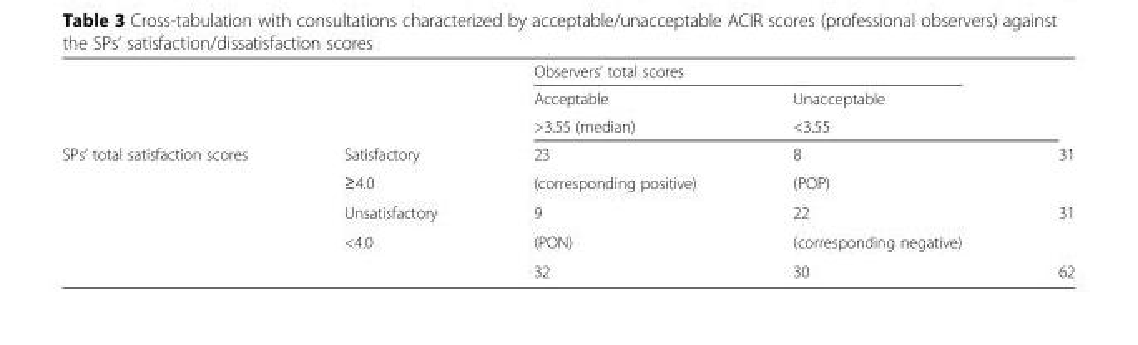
<table><thead><tr><td rowspan="3"></td><td rowspan="3"></td><td colspan="2">Observers’ total scores</td><td rowspan="3"></td></tr><tr><td rowspan="2">Acceptable &gt;3.55 (median)</td><td rowspan="2">Unacceptable &lt;3.55</td></tr><tr></tr></thead><tbody><tr><td rowspan="5">SPs’ total satisfaction scores</td><td>Satisfactory</td><td>23</td><td>8</td><td rowspan="2">31</td></tr><tr><td>≥4.0</td><td>(corresponding positive)</td><td>(POP)</td></tr><tr><td>Unsatisfactory</td><td>9</td><td>22</td><td rowspan="2">31</td></tr><tr><td>&lt;4.0</td><td>(PON)</td><td>(corresponding negative)</td></tr><tr><td></td><td>32</td><td>30</td><td>62</td></tr></tbody></table>